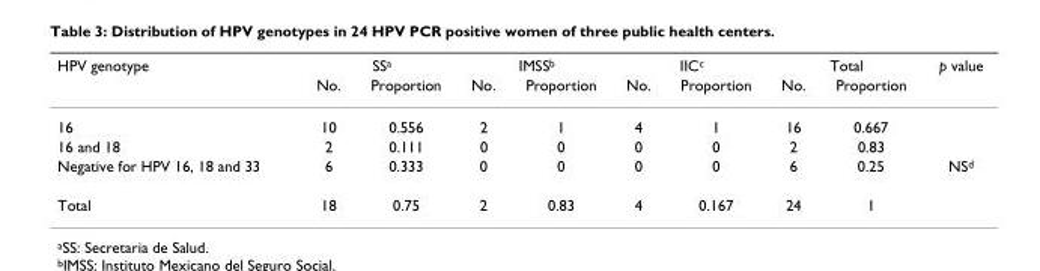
<table><thead><tr><td rowspan="2">HPV genotype</td><td colspan="2">SS<sup>a</sup></td><td colspan="2">IMSS<sup>b</sup></td><td colspan="2">IIC<sup>c</sup></td><td colspan="2">Total</td><td rowspan="2">p value</td></tr><tr><td>No.</td><td>Proportion</td><td>No.</td><td>Proportion</td><td>No.</td><td>Proportion</td><td>No.</td><td>Proportion</td></tr></thead><tbody><tr><td>16</td><td>10</td><td>0.556</td><td>2</td><td>1</td><td>4</td><td>1</td><td>16</td><td>0.667</td><td></td></tr><tr><td>16 and 18</td><td>2</td><td>0.111</td><td>0</td><td>0</td><td>0</td><td>0</td><td>2</td><td>0.83</td><td></td></tr><tr><td>Negative for HPV 16, 18 and 33</td><td>6</td><td>0.333</td><td>0</td><td>0</td><td>0</td><td>0</td><td>6</td><td>0.25</td><td>NS<sup>d</sup></td></tr><tr><td>Total</td><td>18</td><td>0.75</td><td>2</td><td>0.83</td><td>4</td><td>0.167</td><td>24</td><td>1</td><td></td></tr></tbody></table>